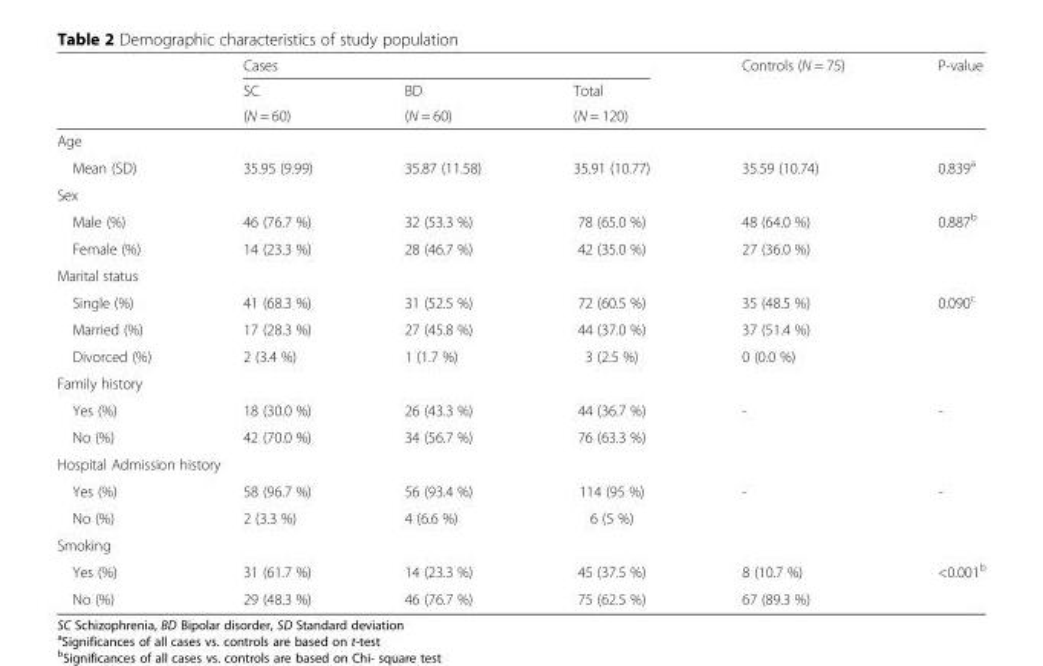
<table><thead><tr><td rowspan="3"></td><td colspan="3">Cases</td><td rowspan="3">Controls (N = 75)</td><td rowspan="3">P-value</td></tr><tr><td rowspan="2">SC (N = 60)</td><td rowspan="2">BD (N = 60)</td><td rowspan="2">Total (N = 120)</td></tr><tr></tr></thead><tbody><tr><td colspan="6">Age</td></tr><tr><td>Mean (SD)</td><td>35.95 (9.99)</td><td>35.87 (11.58)</td><td>35.91 (10.77)</td><td>35.59 (10.74)</td><td>0.839<sup>a</sup></td></tr><tr><td colspan="6">Sex</td></tr><tr><td>Male (%)</td><td>46 (76.7 %)</td><td>32 (53.3 %)</td><td>78 (65.0 %)</td><td>48 (64.0 %)</td><td rowspan="2">0.887<sup>b</sup></td></tr><tr><td>Female (%)</td><td>14 (23.3 %)</td><td>28 (46.7 %)</td><td>42 (35.0 %)</td><td>27 (36.0 %)</td></tr><tr><td colspan="6">Marital status</td></tr><tr><td>Single (%)</td><td>41 (68.3 %)</td><td>31 (52.5 %)</td><td>72 (60.5 %)</td><td>35 (48.5 %)</td><td rowspan="3">0.090<sup>c</sup></td></tr><tr><td>Married (%)</td><td>17 (28.3 %)</td><td>27 (45.8 %)</td><td>44 (37.0 %)</td><td>37 (51.4 %)</td></tr><tr><td>Divorced (%)</td><td>2 (3.4 %)</td><td>1 (1.7 %)</td><td>3 (2.5 %)</td><td>0 (0.0 %)</td></tr><tr><td colspan="6">Family history</td></tr><tr><td>Yes (%)</td><td>18 (30.0 %)</td><td>26 (43.3 %)</td><td>44 (36.7 %)</td><td rowspan="2">-</td><td rowspan="2">-</td></tr><tr><td>No (%)</td><td>42 (70.0 %)</td><td>34 (56.7 %)</td><td>76 (63.3 %)</td></tr><tr><td colspan="6">Hospital Admission history</td></tr><tr><td>Yes (%)</td><td>58 (96.7 %)</td><td>56 (93.4 %)</td><td>114 (95 %)</td><td rowspan="2">-</td><td rowspan="2">-</td></tr><tr><td>No (%)</td><td>2 (3.3 %)</td><td>4 (6.6 %)</td><td>6 (5 %)</td></tr><tr><td colspan="6">Smoking</td></tr><tr><td>Yes (%)</td><td>31 (61.7 %)</td><td>14 (23.3 %)</td><td>45 (37.5 %)</td><td>8 (10.7 %)</td><td rowspan="2">&lt;0.001<sup>b</sup></td></tr><tr><td>No (%)</td><td>29 (48.3 %)</td><td>46 (76.7 %)</td><td>75 (62.5 %)</td><td>67 (89.3 %)</td></tr></tbody></table>